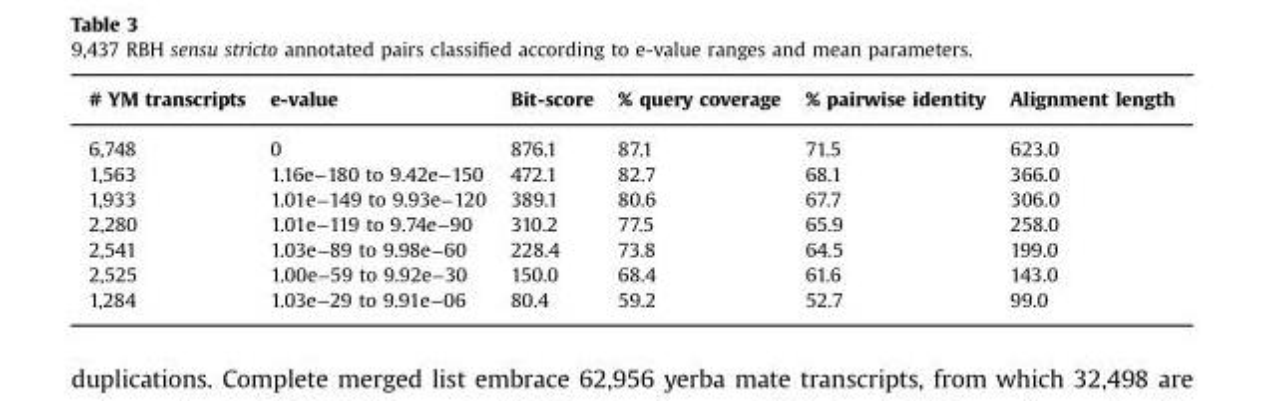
<table><thead><tr><td># YM transcripts</td><td>e-value</td><td>Bit-score</td><td>% query coverage</td><td>% pairwise identity</td><td>Alignment length</td></tr></thead><tbody><tr><td>6,748</td><td>0</td><td>876.1</td><td>87.1</td><td>71.5</td><td>623.0</td></tr><tr><td>1,563</td><td>1.16e−180 to 9.42e−150</td><td>472.1</td><td>82.7</td><td>68.1</td><td>366.0</td></tr><tr><td>1,933</td><td>1.01e−149 to 9.93e−120</td><td>389.1</td><td>80.6</td><td>67.7</td><td>306.0</td></tr><tr><td>2,280</td><td>1.01e−119 to 9.74e−90</td><td>310.2</td><td>77.5</td><td>65.9</td><td>258.0</td></tr><tr><td>2,541</td><td>1.03e−89 to 9.98e−60</td><td>228.4</td><td>73.8</td><td>64.5</td><td>199.0</td></tr><tr><td>2,525</td><td>1.00e−59 to 9.92e−30</td><td>150.0</td><td>68.4</td><td>61.6</td><td>143.0</td></tr><tr><td>1,284</td><td>1.03e−29 to 9.91e−06</td><td>80.4</td><td>59.2</td><td>52.7</td><td>99.0</td></tr></tbody></table>